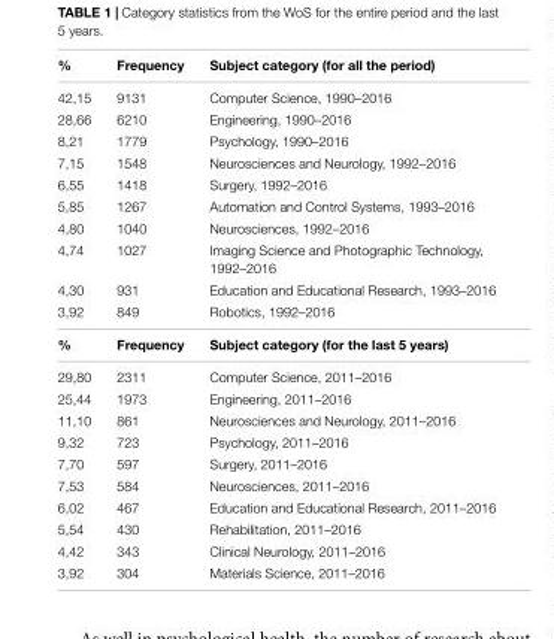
<table><thead><tr><td>%</td><td>Frequency</td><td>Subject category (for all the period)</td></tr></thead><tbody><tr><td>42,15</td><td>9131</td><td>Computer Science, 1990–2016</td></tr><tr><td>28,66</td><td>6210</td><td>Engineering, 1990–2016</td></tr><tr><td>8,21</td><td>1779</td><td>Psychology, 1990–2016</td></tr><tr><td>7,15</td><td>1548</td><td>Neurosciences and Neurology, 1992–2016</td></tr><tr><td>6,55</td><td>1418</td><td>Surgery, 1992–2016</td></tr><tr><td>5,85</td><td>1267</td><td>Automation and Control Systems, 1993–2016</td></tr><tr><td>4,80</td><td>1040</td><td>Neurosciences, 1992–2016</td></tr><tr><td>4,74</td><td>1027</td><td>Imaging Science and Photographic Technology, 1992–2016</td></tr><tr><td>4,30</td><td>931</td><td>Education and Educational Research, 1993–2016</td></tr><tr><td>3,92</td><td>849</td><td>Robotics, 1992–2016</td></tr><tr><td>%</td><td>Frequency</td><td>Subject category (for the last 5 years)</td></tr><tr><td>29,80</td><td>2311</td><td>Computer Science, 2011–2016</td></tr><tr><td>25,44</td><td>1973</td><td>Engineering, 2011–2016</td></tr><tr><td>11,10</td><td>861</td><td>Neurosciences and Neurology, 2011–2016</td></tr><tr><td>9,32</td><td>723</td><td>Psychology, 2011–2016</td></tr><tr><td>7,70</td><td>597</td><td>Surgery, 2011–2016</td></tr><tr><td>7,53</td><td>584</td><td>Neurosciences, 2011–2016</td></tr><tr><td>6,02</td><td>467</td><td>Education and Educational Research, 2011–2016</td></tr><tr><td>5,54</td><td>430</td><td>Rehabilitation, 2011–2016</td></tr><tr><td>4,42</td><td>343</td><td>Clinical Neurology, 2011–2016</td></tr><tr><td>3,92</td><td>304</td><td>Materials Science, 2011–2016</td></tr></tbody></table>